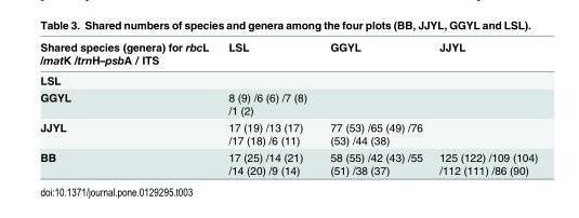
<table><thead><tr><td>Shared species (genera) for rbcL /matK /trnH–psbA / ITS</td><td>LSL</td><td>GGYL</td><td>JJYL</td></tr></thead><tbody><tr><td colspan="4">LSL</td></tr><tr><td>GGYL</td><td>8 (9) /6 (6) /7 (8) /1 (2)</td><td></td><td></td></tr><tr><td>JJYL</td><td>17 (19) /13 (17) /17 (18) /6 (11)</td><td>77 (53) /65 (49) /76 (53) /44 (38)</td><td></td></tr><tr><td>BB</td><td>17 (25) /14 (21) /14 (20) /9 (14)</td><td>58 (55) /42 (43) /55 (51) /38 (37)</td><td>125 (122) /109 (104) /112 (111) /86 (90)</td></tr></tbody></table>